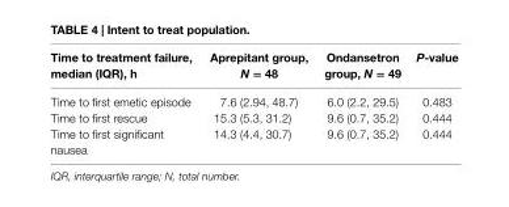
<table><thead><tr><td>Time to treatment failure, median (iQr), h</td><td>aprepitant group, N = 48</td><td>Ondansetron group, N = 49</td><td>P-value</td></tr></thead><tbody><tr><td>Time to first emetic episode</td><td>7.6 (2.94, 48.7)</td><td>6.0 (2.2, 29.5)</td><td>0.483</td></tr><tr><td>Time to first rescue</td><td>15.3 (5.3, 31.2)</td><td>9.6 (0.7, 35.2)</td><td>0.444</td></tr><tr><td>Time to first significant nausea</td><td>14.3 (4.4, 30.7)</td><td>9.6 (0.7, 35.2)</td><td>0.444</td></tr></tbody></table>